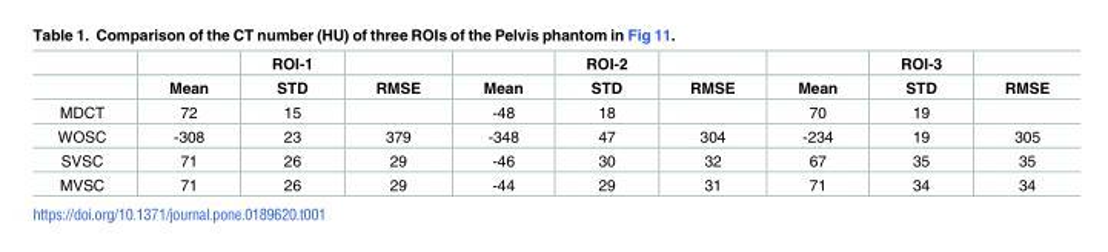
<table><thead><tr><td rowspan="2"></td><td rowspan="2">Mean</td><td rowspan="2">ROI-1 STD</td><td rowspan="2">RMSE</td><td rowspan="2">Mean</td><td rowspan="2">ROI-2 STD</td><td rowspan="2">RMSE</td><td rowspan="2">Mean</td><td rowspan="2">ROI-3 STD</td><td rowspan="2">RMSE</td></tr><tr></tr></thead><tbody><tr><td>MDCT</td><td>72</td><td>15</td><td></td><td>-48</td><td>18</td><td></td><td>70</td><td>19</td><td></td></tr><tr><td>WOSC</td><td>-308</td><td>23</td><td>379</td><td>-348</td><td>47</td><td>304</td><td>-234</td><td>19</td><td>305</td></tr><tr><td>SVSC</td><td>71</td><td>26</td><td>29</td><td>-46</td><td>30</td><td>32</td><td>67</td><td>35</td><td>35</td></tr><tr><td>MVSC</td><td>71</td><td>26</td><td>29</td><td>-44</td><td>29</td><td>31</td><td>71</td><td>34</td><td>34</td></tr></tbody></table>